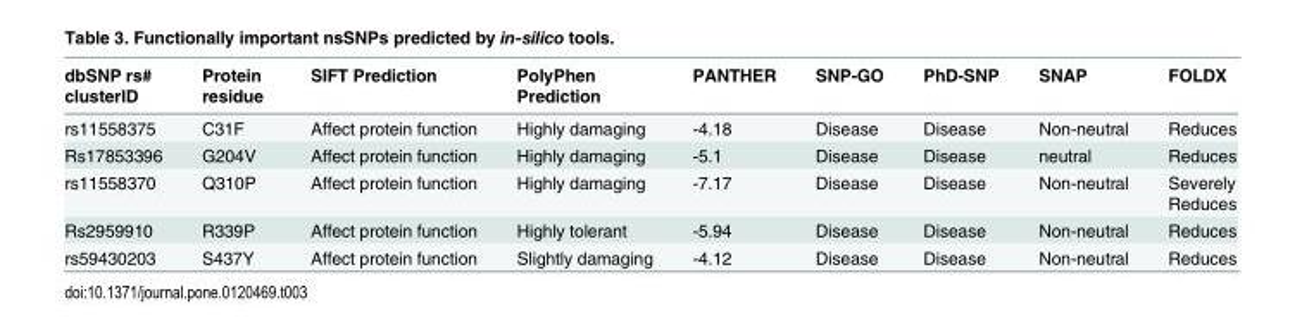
<table><thead><tr><td>dbSNP rs# clusterID</td><td>Protein residue</td><td>SIFT Prediction</td><td>PolyPhen Prediction</td><td>PANTHER</td><td>SNP-GO</td><td>PhD-SNP</td><td>SNAP</td><td>FOLDX</td></tr></thead><tbody><tr><td>rs11558375</td><td>C31F</td><td>Affect protein function</td><td>Highly damaging</td><td>-4.18</td><td>Disease</td><td>Disease</td><td>Non-neutral</td><td>Reduces</td></tr><tr><td>Rs17853396</td><td>G204V</td><td>Affect protein function</td><td>Highly damaging</td><td>-5.1</td><td>Disease</td><td>Disease</td><td>neutral</td><td>Reduces</td></tr><tr><td>rs11558370</td><td>Q310P</td><td>Affect protein function</td><td>Highly damaging</td><td>-7.17</td><td>Disease</td><td>Disease</td><td>Non-neutral</td><td>Severely Reduces</td></tr><tr><td>Rs2959910</td><td>R339P</td><td>Affect protein function</td><td>Highly tolerant</td><td>-5.94</td><td>Disease</td><td>Disease</td><td>Non-neutral</td><td>Reduces</td></tr><tr><td>rs59430203</td><td>S437Y</td><td>Affect protein function</td><td>Slightly damaging</td><td>-4.12</td><td>Disease</td><td>Disease</td><td>Non-neutral</td><td>Reduces</td></tr></tbody></table>